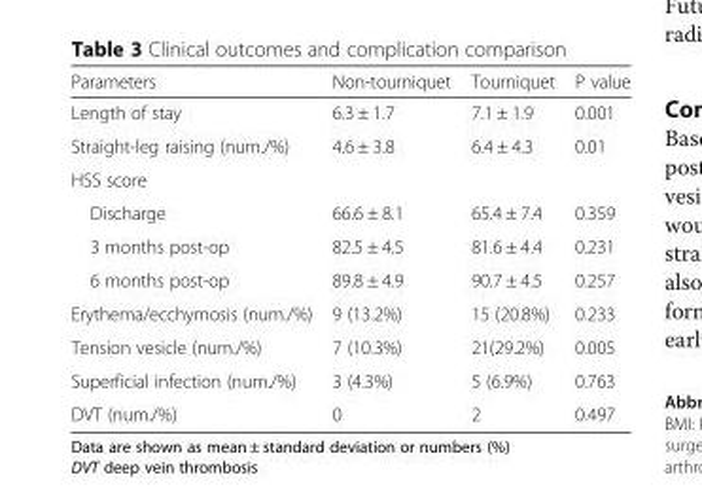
<table><thead><tr><td>Parameters</td><td>Non-tourniquet</td><td>Tourniquet</td><td>P value</td></tr></thead><tbody><tr><td>Length of stay</td><td>6.3 ± 1.7</td><td>7.1 ± 1.9</td><td>0.001</td></tr><tr><td>Straight-leg raising (num./%)</td><td>4.6 ± 3.8</td><td>6.4 ± 4.3</td><td>0.01</td></tr><tr><td colspan="4">HSS score</td></tr><tr><td>Discharge</td><td>66.6 ± 8.1</td><td>65.4 ± 7.4</td><td>0.359</td></tr><tr><td>3 months post-op</td><td>82.5 ± 4.5</td><td>81.6 ± 4.4</td><td>0.231</td></tr><tr><td>6 months post-op</td><td>89.8 ± 4.9</td><td>90.7 ± 4.5</td><td>0.257</td></tr><tr><td>Erythema/ecchymosis (num./%)</td><td>9 (13.2%)</td><td>15 (20.8%)</td><td>0.233</td></tr><tr><td>Tension vesicle (num./%)</td><td>7 (10.3%)</td><td>21(29.2%)</td><td>0.005</td></tr><tr><td>Superficial infection (num./%)</td><td>3 (4.3%)</td><td>5 (6.9%)</td><td>0.763</td></tr><tr><td>DVT (num./%)</td><td>0</td><td>2</td><td>0.497</td></tr></tbody></table>